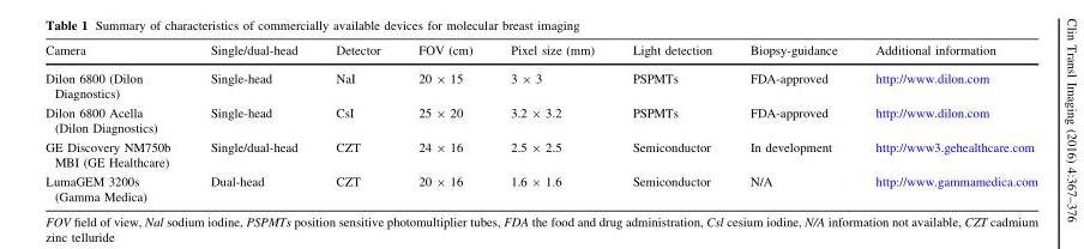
<table><thead><tr><td>Camera</td><td>Single/dual-head</td><td>Detector</td><td>FOV (cm)</td><td>Pixel size (mm)</td><td>Light detection</td><td>Biopsy-guidance</td><td>Additional information</td></tr></thead><tbody><tr><td>Dilon 6800 (Dilon Diagnostics)</td><td>Single-head</td><td>NaI</td><td>20 × 15</td><td>3 × 3</td><td>PSPMTs</td><td>FDA-approved</td><td>http://www.dilon.com</td></tr><tr><td>Dilon 6800 Acella (Dilon Diagnostics)</td><td>Single-head</td><td>CsI</td><td>25 × 20</td><td>3.2 × 3.2</td><td>PSPMTs</td><td>FDA-approved</td><td>http://www.dilon.com</td></tr><tr><td>GE Discovery NM750b MBI (GE Healthcare)</td><td>Single/dual-head</td><td>CZT</td><td>24 × 16</td><td>2.5 × 2.5</td><td>Semiconductor</td><td>In development</td><td>http://www3.gehealthcare.com</td></tr><tr><td>LumaGEM 3200s (Gamma Medica)</td><td>Dual-head</td><td>CZT</td><td>20 × 16</td><td>1.6 × 1.6</td><td>Semiconductor</td><td>N/A</td><td>http://www.gammamedica.com</td></tr></tbody></table>